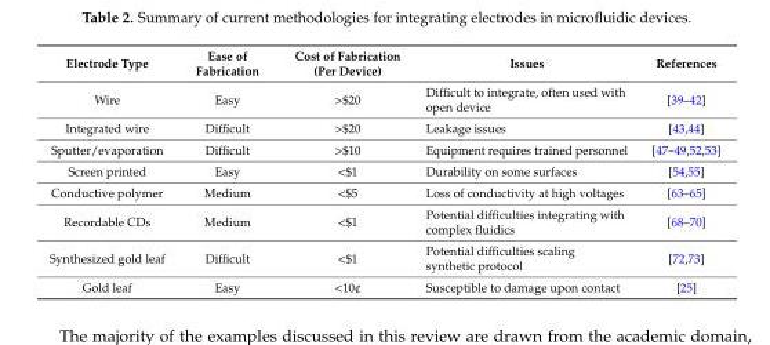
<table><thead><tr><td>Electrode Type</td><td>Ease of Fabrication</td><td>Cost of Fabrication (Per Device)</td><td>Issues</td><td>References</td></tr></thead><tbody><tr><td>Wire</td><td>Easy</td><td>&gt;$20</td><td>Difficult to integrate, often used with open device</td><td>[39–42]</td></tr><tr><td>Integrated wire</td><td>Difficult</td><td>&gt;$20</td><td>Leakage issues</td><td>[43,44]</td></tr><tr><td>Sputter/evaporation</td><td>Difficult</td><td>&gt;$10</td><td>Equipment requires trained personnel</td><td>[47–49,52,53]</td></tr><tr><td>Screen printed</td><td>Easy</td><td>&lt;$1</td><td>Durability on some surfaces</td><td>[54,55]</td></tr><tr><td>Conductive polymer</td><td>Medium</td><td>&lt;$5</td><td>Loss of conductivity at high voltages</td><td>[63–65]</td></tr><tr><td>Recordable CDs</td><td>Medium</td><td>&lt;$1</td><td>Potential difficulties integrating with complex fluidics</td><td>[68–70]</td></tr><tr><td>Synthesized gold leaf</td><td>Difficult</td><td>&lt;$1</td><td>Potential difficulties scaling synthetic protocol</td><td>[72,73]</td></tr><tr><td>Gold leaf</td><td>Easy</td><td>&lt;10¢</td><td>Susceptible to damage upon contact</td><td>[25]</td></tr></tbody></table>